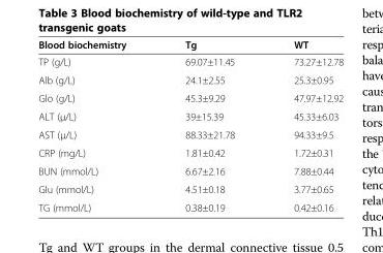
<table><thead><tr><td>Blood biochemistry</td><td>Tg</td><td>WT</td></tr></thead><tbody><tr><td>TP (g/L)</td><td>69.07±11.45</td><td>73.27±12.78</td></tr><tr><td>Alb (g/L)</td><td>24.1±2.55</td><td>25.3±0.95</td></tr><tr><td>Glo (g/L)</td><td>45.3±9.29</td><td>47.97±12.92</td></tr><tr><td>ALT (μ/L)</td><td>39±15.39</td><td>45.33±6.03</td></tr><tr><td>AST (μ/L)</td><td>88.33±21.78</td><td>94.33±9.5</td></tr><tr><td>CRP (mg/L)</td><td>1.81±0.42</td><td>1.72±0.31</td></tr><tr><td>BUN (mmol/L)</td><td>6.67±2.16</td><td>7.88±0.44</td></tr><tr><td>Glu (mmol/L)</td><td>4.51±0.18</td><td>3.77±0.65</td></tr><tr><td>TG (mmol/L)</td><td>0.38±0.19</td><td>0.42±0.16</td></tr></tbody></table>